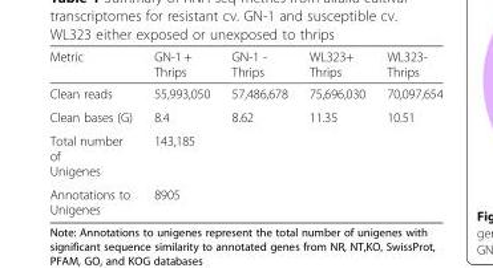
<table><thead><tr><td>Metric</td><td>GN-1 + Thrips</td><td>GN-1 - Thrips</td><td>WL323+ Thrips</td><td>WL323- Thrips</td></tr></thead><tbody><tr><td>Clean reads</td><td>55,993,050</td><td>57,486,678</td><td>75,696,030</td><td>70,097,654</td></tr><tr><td>Clean bases (G)</td><td>8.4</td><td>8.62</td><td>11.35</td><td>10.51</td></tr><tr><td>Total number of Unigenes</td><td colspan="4">143,185</td></tr><tr><td>Annotations to Unigenes</td><td colspan="4">8905</td></tr></tbody></table>